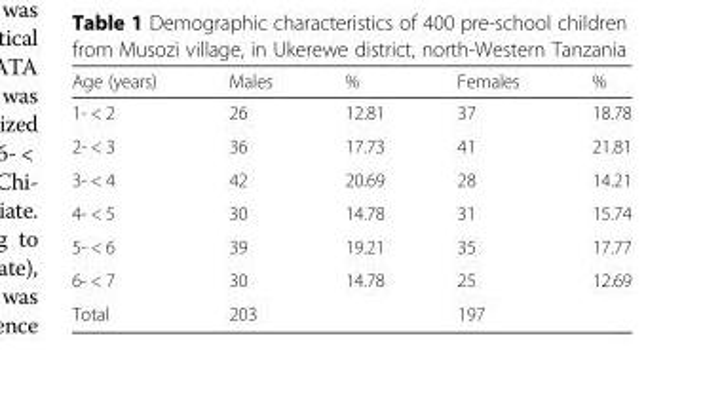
<table><thead><tr><td>Age (years)</td><td>Males</td><td>%</td><td>Females</td><td>%</td></tr></thead><tbody><tr><td>1- &lt; 2</td><td>26</td><td>12.81</td><td>37</td><td>18.78</td></tr><tr><td>2- &lt; 3</td><td>36</td><td>17.73</td><td>41</td><td>21.81</td></tr><tr><td>3- &lt; 4</td><td>42</td><td>20.69</td><td>28</td><td>14.21</td></tr><tr><td>4- &lt; 5</td><td>30</td><td>14.78</td><td>31</td><td>15.74</td></tr><tr><td>5- &lt; 6</td><td>39</td><td>19.21</td><td>35</td><td>17.77</td></tr><tr><td>6- &lt; 7</td><td>30</td><td>14.78</td><td>25</td><td>12.69</td></tr><tr><td>Total</td><td>203</td><td></td><td>197</td><td></td></tr></tbody></table>